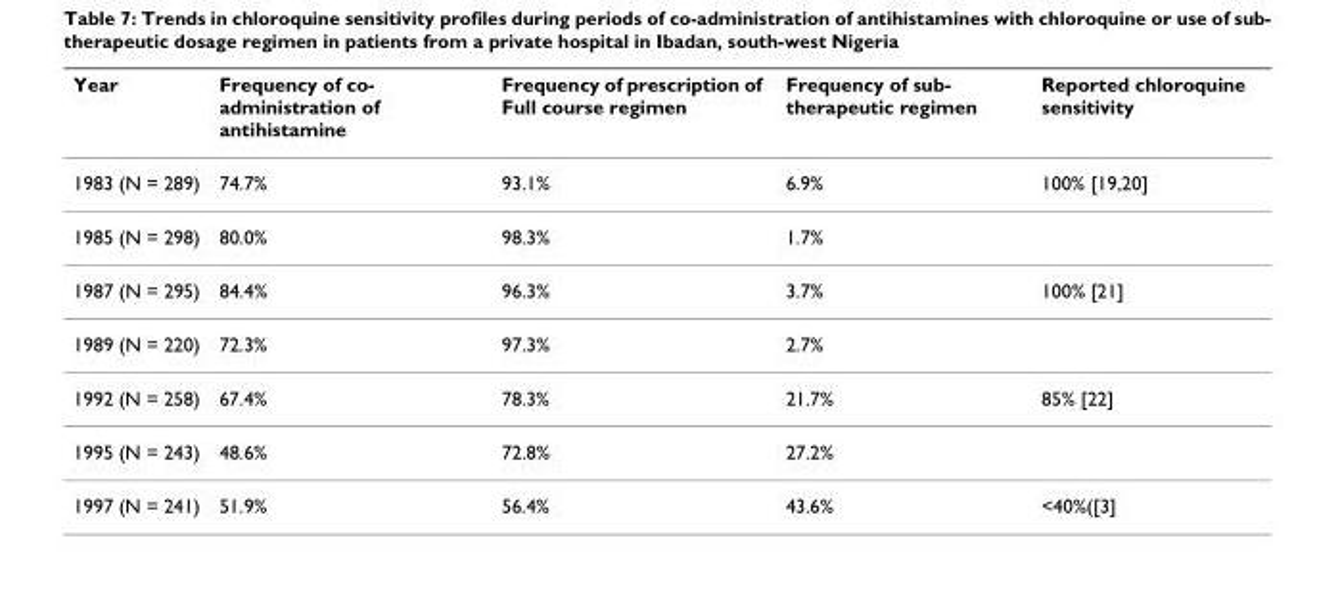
<table><thead><tr><td>Year</td><td>Frequency of co- administration of antihistamine</td><td>Frequency of prescription of Full course regimen</td><td>Frequency of sub- therapeutic regimen</td><td>Reported chloroquine sensitivity</td></tr></thead><tbody><tr><td>1983 (N = 289)</td><td>74.7%</td><td>93.1%</td><td>6.9%</td><td>100% [19,20]</td></tr><tr><td>1985 (N = 298)</td><td>80.0%</td><td>98.3%</td><td>1.7%</td><td></td></tr><tr><td>1987 (N = 295)</td><td>84.4%</td><td>96.3%</td><td>3.7%</td><td>100% [21]</td></tr><tr><td>1989 (N = 220)</td><td>72.3%</td><td>97.3%</td><td>2.7%</td><td></td></tr><tr><td>1992 (N = 258)</td><td>67.4%</td><td>78.3%</td><td>21.7%</td><td>85% [22]</td></tr><tr><td>1995 (N = 243)</td><td>48.6%</td><td>72.8%</td><td>27.2%</td><td></td></tr><tr><td>1997 (N = 241)</td><td>51.9%</td><td>56.4%</td><td>43.6%</td><td>&lt;40%([3]</td></tr></tbody></table>